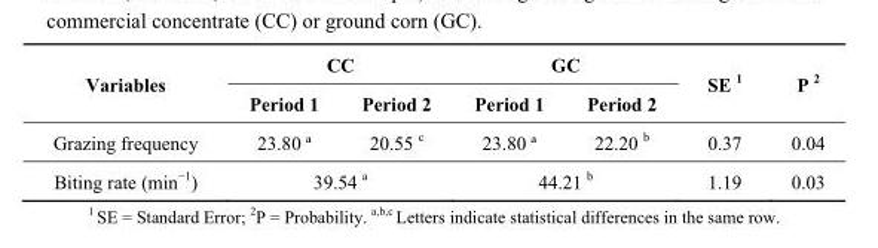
<table><thead><tr><td rowspan="2">Variables</td><td colspan="2">CC</td><td colspan="2">GC</td><td rowspan="2">SE <sup>1</sup></td><td rowspan="2">P <sup>2</sup></td></tr><tr><td>Period 1</td><td>Period 2</td><td>Period 1</td><td>Period 2</td></tr></thead><tbody><tr><td>Grazing frequency</td><td>23.80 ª</td><td>20.55 <sup>c</sup></td><td>23.80 ª</td><td>22.20 <sup>b</sup></td><td>0.37</td><td>0.04</td></tr><tr><td>Biting rate (min<sup>−1</sup>)</td><td colspan="2">39.54 <sup>a</sup></td><td colspan="2">44.21 <sup>b</sup></td><td>1.19</td><td>0.03</td></tr></tbody></table>